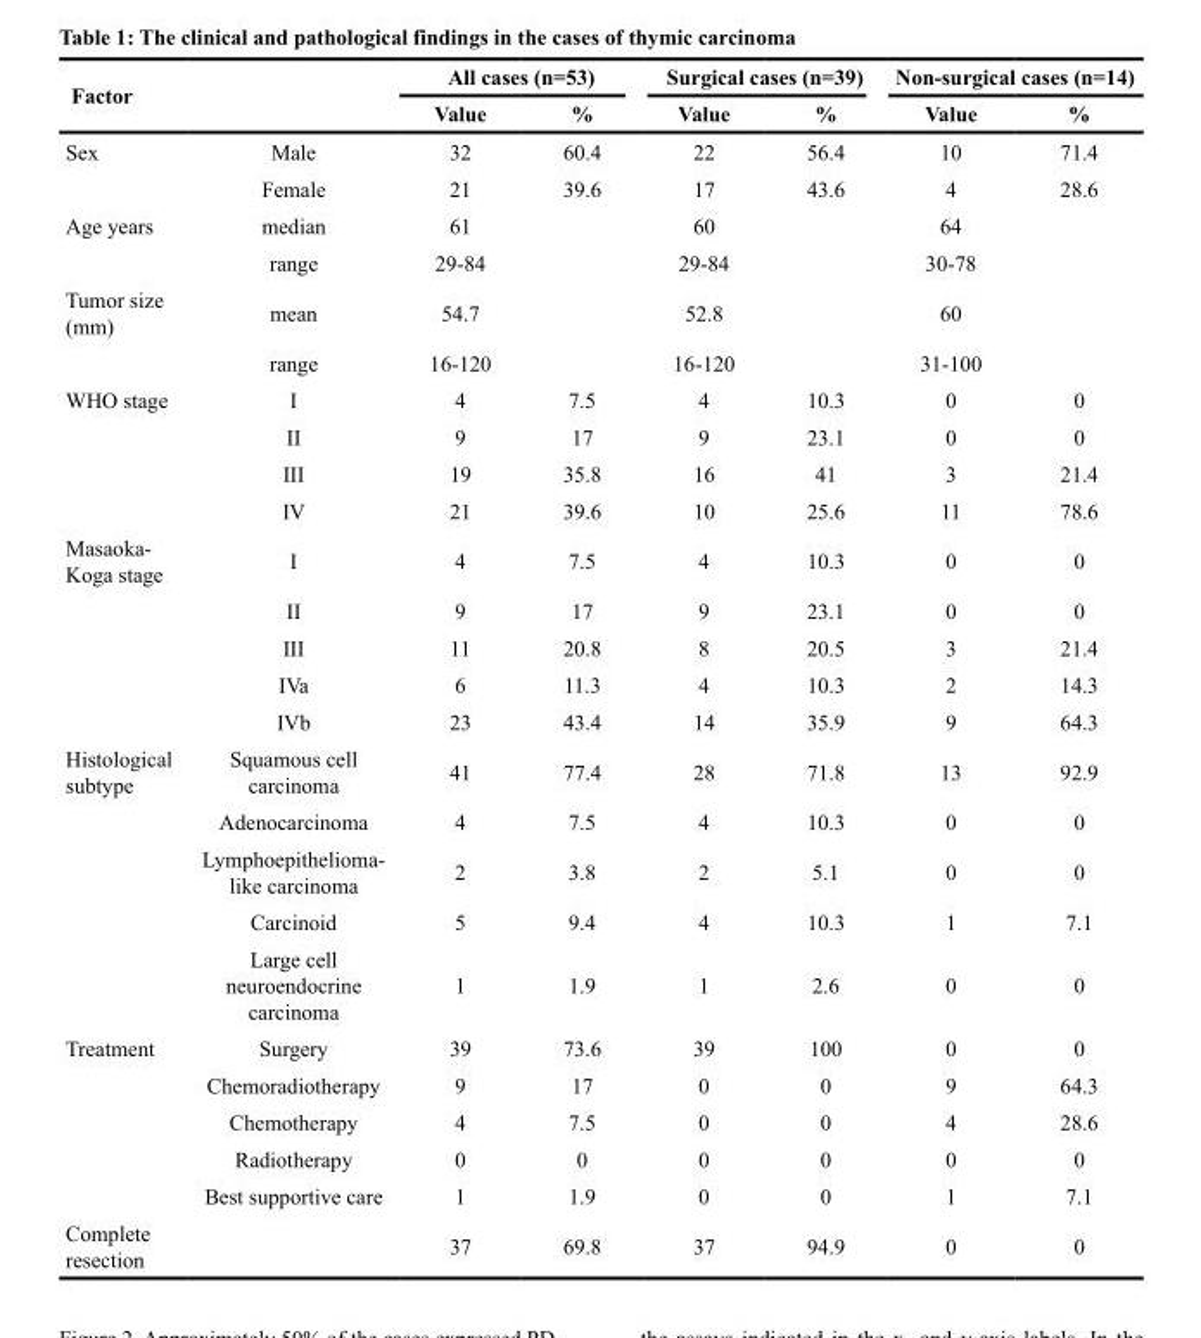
<table><thead><tr><td rowspan="2" colspan="2">Factor</td><td colspan="2">All cases (n=53)</td><td colspan="2">Surgical cases (n=39)</td><td colspan="2">Non-surgical cases (n=14)</td></tr><tr><td rowspan="2">Value 32</td><td rowspan="2">% 60.4</td><td rowspan="2">Value 22</td><td rowspan="2">% 56.4</td><td rowspan="2">Value 10</td><td rowspan="2">% 71.4</td></tr><tr><td>Sex</td><td>Male</td></tr></thead><tbody><tr><td></td><td>Female</td><td>21</td><td>39.6</td><td>17</td><td>43.6</td><td>4</td><td>28.6</td></tr><tr><td rowspan="2">Age years</td><td>median</td><td>61</td><td></td><td>60</td><td></td><td>64</td><td></td></tr><tr><td>range</td><td>29-84</td><td></td><td>29-84</td><td></td><td>30-78</td><td></td></tr><tr><td rowspan="2">Tumor size (mm)</td><td>mean</td><td>54.7</td><td></td><td>52.8</td><td></td><td>60</td><td></td></tr><tr><td>range</td><td>16-120</td><td></td><td>16-120</td><td></td><td>31-100</td><td></td></tr><tr><td rowspan="4">WHO stage</td><td>I</td><td>4</td><td>7.5</td><td>4</td><td>10.3</td><td>0</td><td>0</td></tr><tr><td>II</td><td>9</td><td>17</td><td>9</td><td>23.1</td><td>0</td><td>0</td></tr><tr><td>III</td><td>19</td><td>35.8</td><td>16</td><td>41</td><td>3</td><td>21.4</td></tr><tr><td>IV</td><td>21</td><td>39.6</td><td>10</td><td>25.6</td><td>11</td><td>78.6</td></tr><tr><td rowspan="5">Masaoka- Koga stage</td><td>I</td><td>4</td><td>7.5</td><td>4</td><td>10.3</td><td>0</td><td>0</td></tr><tr><td>II</td><td>9</td><td>17</td><td>9</td><td>23.1</td><td>0</td><td>0</td></tr><tr><td>III</td><td>11</td><td>20.8</td><td>8</td><td>20.5</td><td>3</td><td>21.4</td></tr><tr><td>IVa</td><td>6</td><td>11.3</td><td>4</td><td>10.3</td><td>2</td><td>14.3</td></tr><tr><td>IVb</td><td>23</td><td>43.4</td><td>14</td><td>35.9</td><td>9</td><td>64.3</td></tr><tr><td rowspan="5">Histological subtype</td><td>Squamous cell carcinoma</td><td>41</td><td>77.4</td><td>28</td><td>71.8</td><td>13</td><td>92.9</td></tr><tr><td>Adenocarcinoma</td><td>4</td><td>7.5</td><td>4</td><td>10.3</td><td>0</td><td>0</td></tr><tr><td>Lymphoepithelioma- like carcinoma</td><td>2</td><td>3.8</td><td>2</td><td>5.1</td><td>0</td><td>0</td></tr><tr><td>Carcinoid</td><td>5</td><td>9.4</td><td>4</td><td>10.3</td><td>1</td><td>7.1</td></tr><tr><td>Large cell neuroendocrine carcinoma</td><td>1</td><td>1.9</td><td>1</td><td>2.6</td><td>0</td><td>0</td></tr><tr><td rowspan="5">Treatment</td><td>Surgery</td><td>39</td><td>73.6</td><td>39</td><td>100</td><td>0</td><td>0</td></tr><tr><td>Chemoradiotherapy</td><td>9</td><td>17</td><td>0</td><td>0</td><td>9</td><td>64.3</td></tr><tr><td>Chemotherapy</td><td>4</td><td>7.5</td><td>0</td><td>0</td><td>4</td><td>28.6</td></tr><tr><td>Radiotherapy</td><td>0</td><td>0</td><td>0</td><td>0</td><td>0</td><td>0</td></tr><tr><td>Best supportive care</td><td>1</td><td>1.9</td><td>0</td><td>0</td><td>1</td><td>7.1</td></tr><tr><td>Complete resection</td><td></td><td>37</td><td>69.8</td><td>37</td><td>94.9</td><td>0</td><td>0</td></tr></tbody></table>